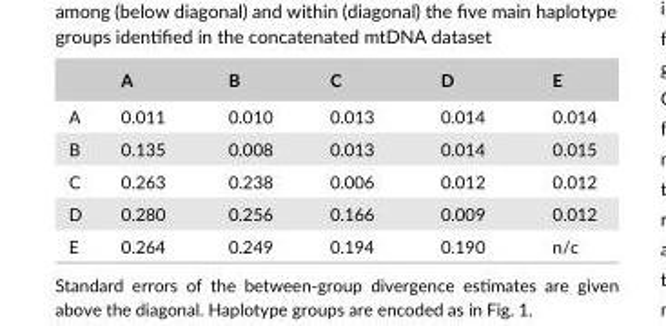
<table><thead><tr><td></td><td>A</td><td>B</td><td>C</td><td>D</td><td>E</td></tr></thead><tbody><tr><td>A</td><td>0.011</td><td>0.010</td><td>0.013</td><td>0.014</td><td>0.014</td></tr><tr><td>B</td><td>0.135</td><td>0.008</td><td>0.013</td><td>0.014</td><td>0.015</td></tr><tr><td>C</td><td>0.263</td><td>0.238</td><td>0.006</td><td>0.012</td><td>0.012</td></tr><tr><td>D</td><td>0.280</td><td>0.256</td><td>0.166</td><td>0.009</td><td>0.012</td></tr><tr><td>E</td><td>0.264</td><td>0.249</td><td>0.194</td><td>0.190</td><td>n/c</td></tr></tbody></table>